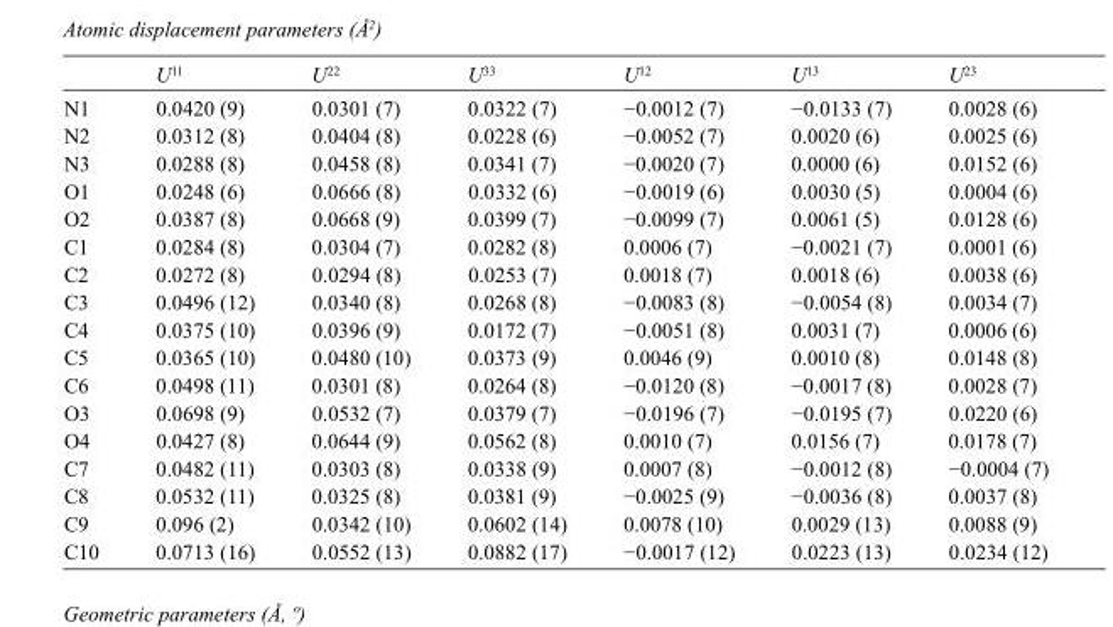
<table><thead><tr><td></td><td>U<sup>11</sup></td><td>U<sup>22</sup></td><td>U<sup>33</sup></td><td>U<sup>12</sup></td><td>U<sup>13</sup></td><td>U<sup>23</sup></td></tr></thead><tbody><tr><td>N1</td><td>0.0420 (9)</td><td>0.0301 (7)</td><td>0.0322 (7)</td><td>−0.0012 (7)</td><td>−0.0133 (7)</td><td>0.0028 (6)</td></tr><tr><td>N2</td><td>0.0312 (8)</td><td>0.0404 (8)</td><td>0.0228 (6)</td><td>−0.0052 (7)</td><td>0.0020 (6)</td><td>0.0025 (6)</td></tr><tr><td>N3</td><td>0.0288 (8)</td><td>0.0458 (8)</td><td>0.0341 (7)</td><td>−0.0020 (7)</td><td>0.0000 (6)</td><td>0.0152 (6)</td></tr><tr><td>O1</td><td>0.0248 (6)</td><td>0.0666 (8)</td><td>0.0332 (6)</td><td>−0.0019 (6)</td><td>0.0030 (5)</td><td>0.0004 (6)</td></tr><tr><td>O2</td><td>0.0387 (8)</td><td>0.0668 (9)</td><td>0.0399 (7)</td><td>−0.0099 (7)</td><td>0.0061 (5)</td><td>0.0128 (6)</td></tr><tr><td>C1</td><td>0.0284 (8)</td><td>0.0304 (7)</td><td>0.0282 (8)</td><td>0.0006 (7)</td><td>−0.0021 (7)</td><td>0.0001 (6)</td></tr><tr><td>C2</td><td>0.0272 (8)</td><td>0.0294 (8)</td><td>0.0253 (7)</td><td>0.0018 (7)</td><td>0.0018 (6)</td><td>0.0038 (6)</td></tr><tr><td>C3</td><td>0.0496 (12)</td><td>0.0340 (8)</td><td>0.0268 (8)</td><td>−0.0083 (8)</td><td>−0.0054 (8)</td><td>0.0034 (7)</td></tr><tr><td>C4</td><td>0.0375 (10)</td><td>0.0396 (9)</td><td>0.0172 (7)</td><td>−0.0051 (8)</td><td>0.0031 (7)</td><td>0.0006 (6)</td></tr><tr><td>C5</td><td>0.0365 (10)</td><td>0.0480 (10)</td><td>0.0373 (9)</td><td>0.0046 (9)</td><td>0.0010 (8)</td><td>0.0148 (8)</td></tr><tr><td>C6</td><td>0.0498 (11)</td><td>0.0301 (8)</td><td>0.0264 (8)</td><td>−0.0120 (8)</td><td>−0.0017 (8)</td><td>0.0028 (7)</td></tr><tr><td>O3</td><td>0.0698 (9)</td><td>0.0532 (7)</td><td>0.0379 (7)</td><td>−0.0196 (7)</td><td>−0.0195 (7)</td><td>0.0220 (6)</td></tr><tr><td>O4</td><td>0.0427 (8)</td><td>0.0644 (9)</td><td>0.0562 (8)</td><td>0.0010 (7)</td><td>0.0156 (7)</td><td>0.0178 (7)</td></tr><tr><td>C7</td><td>0.0482 (11)</td><td>0.0303 (8)</td><td>0.0338 (9)</td><td>0.0007 (8)</td><td>−0.0012 (8)</td><td>−0.0004 (7)</td></tr><tr><td>C8</td><td>0.0532 (11)</td><td>0.0325 (8)</td><td>0.0381 (9)</td><td>−0.0025 (9)</td><td>−0.0036 (8)</td><td>0.0037 (8)</td></tr><tr><td>C9</td><td>0.096 (2)</td><td>0.0342 (10)</td><td>0.0602 (14)</td><td>0.0078 (10)</td><td>0.0029 (13)</td><td>0.0088 (9)</td></tr><tr><td>C10</td><td>0.0713 (16)</td><td>0.0552 (13)</td><td>0.0882 (17)</td><td>−0.0017 (12)</td><td>0.0223 (13)</td><td>0.0234 (12)</td></tr></tbody></table>